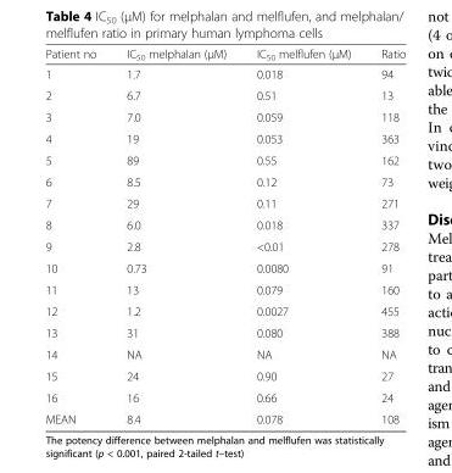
<table><thead><tr><td>Patient no</td><td>IC<sub>50</sub> melphalan (μM)</td><td>IC<sub>50</sub> melflufen (μM)</td><td>Ratio</td></tr></thead><tbody><tr><td>1</td><td>1.7</td><td>0.018</td><td>94</td></tr><tr><td>2</td><td>6.7</td><td>0.51</td><td>13</td></tr><tr><td>3</td><td>7.0</td><td>0.059</td><td>118</td></tr><tr><td>4</td><td>19</td><td>0.053</td><td>363</td></tr><tr><td>5</td><td>89</td><td>0.55</td><td>162</td></tr><tr><td>6</td><td>8.5</td><td>0.12</td><td>73</td></tr><tr><td>7</td><td>29</td><td>0.11</td><td>271</td></tr><tr><td>8</td><td>6.0</td><td>0.018</td><td>337</td></tr><tr><td>9</td><td>2.8</td><td>&lt;0.01</td><td>278</td></tr><tr><td>10</td><td>0.73</td><td>0.0080</td><td>91</td></tr><tr><td>11</td><td>13</td><td>0.079</td><td>160</td></tr><tr><td>12</td><td>1.2</td><td>0.0027</td><td>455</td></tr><tr><td>13</td><td>31</td><td>0.080</td><td>388</td></tr><tr><td>14</td><td>NA</td><td>NA</td><td>NA</td></tr><tr><td>15</td><td>24</td><td>0.90</td><td>27</td></tr><tr><td>16</td><td>16</td><td>0.66</td><td>24</td></tr><tr><td>MEAN</td><td>8.4</td><td>0.078</td><td>108</td></tr></tbody></table>